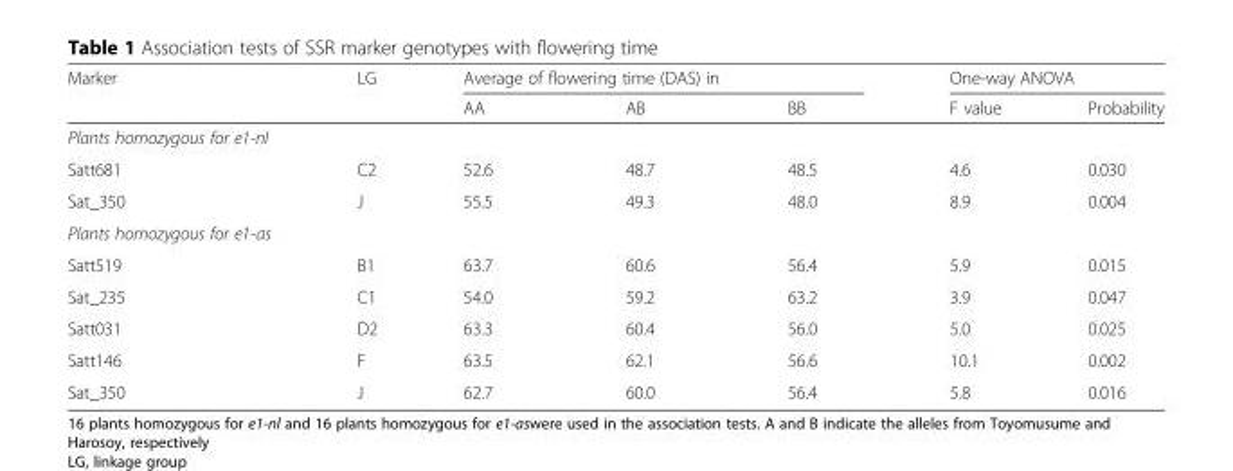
<table><thead><tr><td rowspan="2">Marker</td><td rowspan="2">LG</td><td colspan="3">Average of flowering time (DAS) in</td><td colspan="2">One-way ANOVA</td></tr><tr><td>AA</td><td>AB</td><td>BB</td><td>F value</td><td>Probability</td></tr></thead><tbody><tr><td colspan="7">Plants homozygous for e1-nl</td></tr><tr><td>Satt681</td><td>C2</td><td>52.6</td><td>48.7</td><td>48.5</td><td>4.6</td><td>0.030</td></tr><tr><td>Sat_350</td><td>J</td><td>55.5</td><td>49.3</td><td>48.0</td><td>8.9</td><td>0.004</td></tr><tr><td colspan="7">Plants homozygous for e1-as</td></tr><tr><td>Satt519</td><td>B1</td><td>63.7</td><td>60.6</td><td>56.4</td><td>5.9</td><td>0.015</td></tr><tr><td>Sat_235</td><td>C1</td><td>54.0</td><td>59.2</td><td>63.2</td><td>3.9</td><td>0.047</td></tr><tr><td>Satt031</td><td>D2</td><td>63.3</td><td>60.4</td><td>56.0</td><td>5.0</td><td>0.025</td></tr><tr><td>Satt146</td><td>F</td><td>63.5</td><td>62.1</td><td>56.6</td><td>10.1</td><td>0.002</td></tr><tr><td>Sat_350</td><td>J</td><td>62.7</td><td>60.0</td><td>56.4</td><td>5.8</td><td>0.016</td></tr></tbody></table>